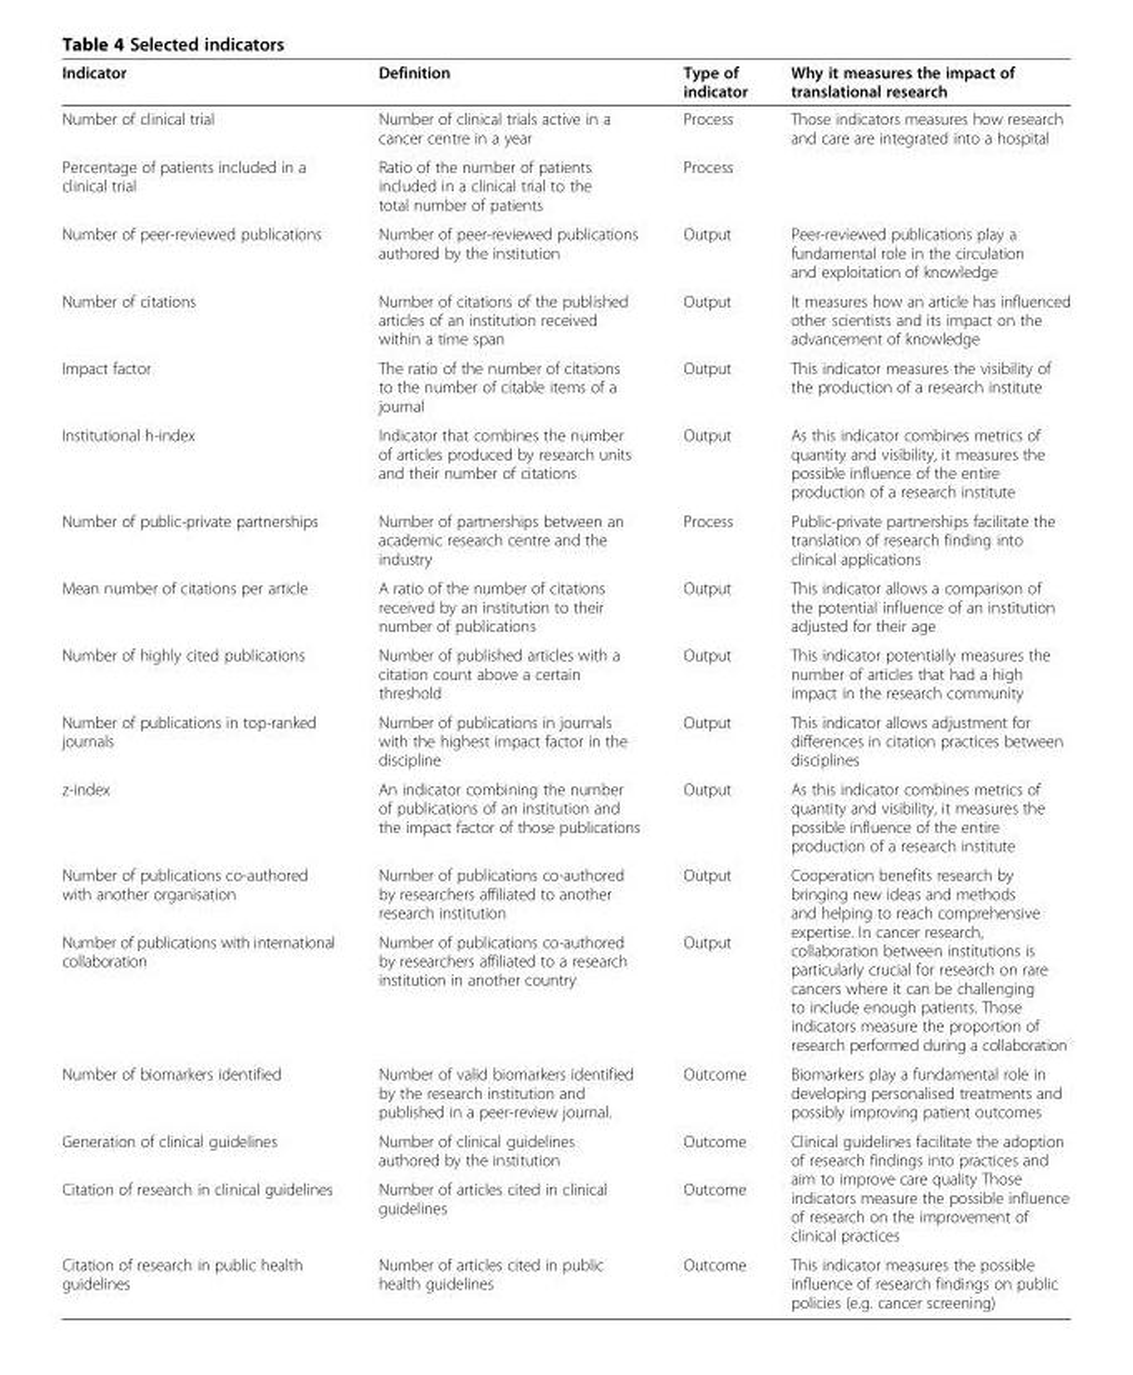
<table><thead><tr><td>Indicator</td><td>Definition</td><td>Type of indicator</td><td>Why it measures the impact of translational research</td></tr></thead><tbody><tr><td>Number of clinical trial</td><td>Number of clinical trials active in a cancer centre in a year</td><td>Process</td><td rowspan="2">Those indicators measures how research and care are integrated into a hospital</td></tr><tr><td>Percentage of patients included in a clinical trial</td><td>Ratio of the number of patients included in a clinical trial to the total number of patients</td><td>Process</td></tr><tr><td>Number of peer-reviewed publications</td><td>Number of peer-reviewed publications authored by the institution</td><td>Output</td><td>Peer-reviewed publications play a fundamental role in the circulation and exploitation of knowledge</td></tr><tr><td>Number of citations</td><td>Number of citations of the published articles of an institution received within a time span</td><td>Output</td><td>It measures how an article has influenced other scientists and its impact on the advancement of knowledge</td></tr><tr><td>Impact factor</td><td>The ratio of the number of citations to the number of citable items of a journal</td><td>Output</td><td>This indicator measures the visibility of the production of a research institute</td></tr><tr><td>Institutional h-index</td><td>Indicator that combines the number of articles produced by research units and their number of citations</td><td>Output</td><td>As this indicator combines metrics of quantity and visibility, it measures the possible influence of the entire production of a research institute</td></tr><tr><td>Number of public-private partnerships</td><td>Number of partnerships between an academic research centre and the industry</td><td>Process</td><td>Public-private partnerships facilitate the translation of research finding into clinical applications</td></tr><tr><td>Mean number of citations per article</td><td>A ratio of the number of citations received by an institution to their number of publications</td><td>Output</td><td>This indicator allows a comparison of the potential influence of an institution adjusted for their age</td></tr><tr><td>Number of highly cited publications</td><td>Number of published articles with a citation count above a certain threshold</td><td>Output</td><td>This indicator potentially measures the number of articles that had a high impact in the research community</td></tr><tr><td>Number of publications in top-ranked journals</td><td>Number of publications in journals with the highest impact factor in the discipline</td><td>Output</td><td>This indicator allows adjustment for differences in citation practices between disciplines</td></tr><tr><td>z-index</td><td>An indicator combining the number of publications of an institution and the impact factor of those publications</td><td>Output</td><td>As this indicator combines metrics of quantity and visibility, it measures the possible influence of the entire production of a research institute</td></tr><tr><td>Number of publications co-authored with another organisation</td><td>Number of publications co-authored by researchers affiliated to another research institution</td><td>Output</td><td rowspan="2">Cooperation benefits research by bringing new ideas and methods and helping to reach comprehensive expertise. In cancer research, collaboration between institutions is particularly crucial for research on rare cancers where it can be challenging to include enough patients. Those indicators measure the proportion of research performed during a collaboration</td></tr><tr><td>Number of publications with international collaboration</td><td>Number of publications co-authored by researchers affiliated to a research institution in another country</td><td>Output</td></tr><tr><td>Number of biomarkers identified</td><td>Number of valid biomarkers identified by the research institution and published in a peer-review journal.</td><td>Outcome</td><td>Biomarkers play a fundamental role in developing personalised treatments and possibly improving patient outcomes</td></tr><tr><td>Generation of clinical guidelines</td><td>Number of clinical guidelines authored by the institution</td><td>Outcome</td><td rowspan="2">Clinical guidelines facilitate the adoption of research findings into practices and aim to improve care quality Those indicators measure the possible influence of research on the improvement of clinical practices</td></tr><tr><td>Citation of research in clinical guidelines</td><td>Number of articles cited in clinical guidelines</td><td>Outcome</td></tr><tr><td>Citation of research in public health guidelines</td><td>Number of articles cited in public health guidelines</td><td>Outcome</td><td>This indicator measures the possible influence of research findings on public policies (e.g. cancer screening)</td></tr></tbody></table>